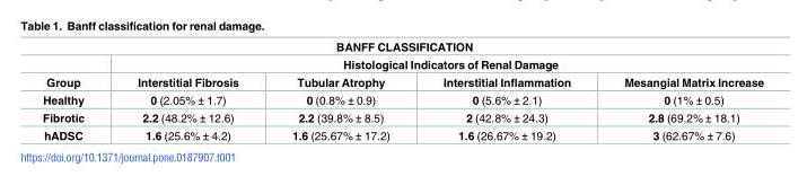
<table><thead><tr><td colspan="5">BANFF CLASSIFICATION</td></tr><tr><td rowspan="2">Group</td><td colspan="4">Histological Indicators of Renal Damage</td></tr><tr><td>Interstitial Fibrosis</td><td>Tubular Atrophy</td><td>Interstitial Inflammation</td><td>Mesangial Matrix Increase</td></tr></thead><tbody><tr><td>Healthy</td><td>0 (2.05% ± 1.7)</td><td>0 (0.8% ± 0.9)</td><td>0 (5.6% ± 2.1)</td><td>0 (1% ± 0.5)</td></tr><tr><td>Fibrotic</td><td>2.2 (48.2% ± 12.6)</td><td>2.2 (39.8% ± 8.5)</td><td>2 (42.8% ± 24.3)</td><td>2.8 (69.2% ± 18.1)</td></tr><tr><td>hADSC</td><td>1.6 (25.6% ± 4.2)</td><td>1.6 (25.67% ± 17.2)</td><td>1.6 (26.67% ± 19.2)</td><td>3 (62.67% ± 7.6)</td></tr></tbody></table>